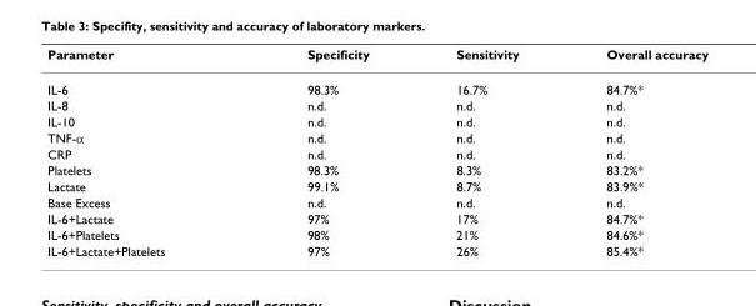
<table><thead><tr><td>Parameter</td><td>Specificity</td><td>Sensitivity</td><td>Overall accuracy</td></tr></thead><tbody><tr><td>IL-6</td><td>98.3%</td><td>16.7%</td><td>84.7%*</td></tr><tr><td>IL-8</td><td>n.d.</td><td>n.d.</td><td>n.d.</td></tr><tr><td>IL-10</td><td>n.d.</td><td>n.d.</td><td>n.d.</td></tr><tr><td>TNF-α</td><td>n.d.</td><td>n.d.</td><td>n.d.</td></tr><tr><td>CRP</td><td>n.d.</td><td>n.d.</td><td>n.d.</td></tr><tr><td>Platelets</td><td>98.3%</td><td>8.3%</td><td>83.2%*</td></tr><tr><td>Lactate</td><td>99.1%</td><td>8.7%</td><td>83.9%*</td></tr><tr><td>Base Excess</td><td>n.d.</td><td>n.d.</td><td>n.d.</td></tr><tr><td>IL-6+Lactate</td><td>97%</td><td>17%</td><td>84.7%*</td></tr><tr><td>IL-6+Platelets</td><td>98%</td><td>21%</td><td>84.6%*</td></tr><tr><td>IL-6+Lactate+Platelets</td><td>97%</td><td>26%</td><td>85.4%*</td></tr></tbody></table>